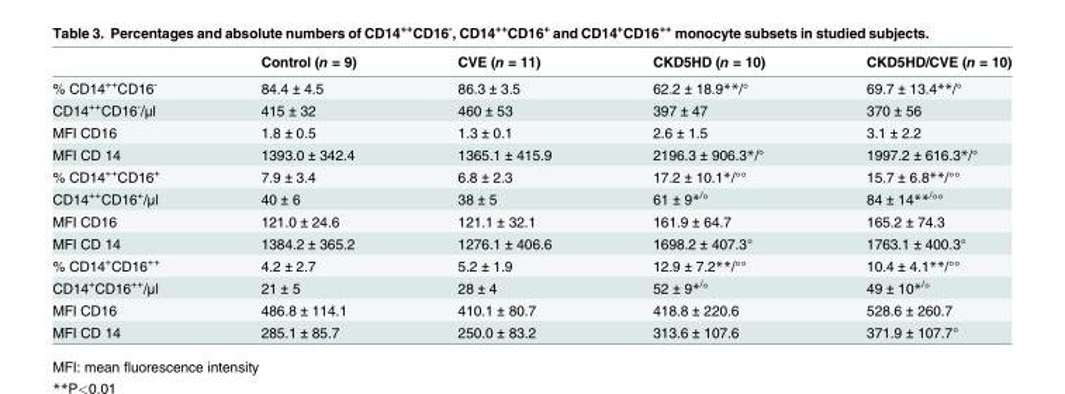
<table><thead><tr><td></td><td>Control (n = 9)</td><td>CVE (n = 11)</td><td>CKD5HD (n = 10)</td><td>CKD5HD/CVE (n = 10)</td></tr></thead><tbody><tr><td>% CD14<sup>++</sup>CD16<sup>-</sup></td><td>84.4 ± 4.5</td><td>86.3 ± 3.5</td><td>62.2 ± 18.9**/°</td><td>69.7 ± 13.4**/°</td></tr><tr><td>CD14<sup>++</sup>CD16<sup>-</sup>/μl</td><td>415 ± 32</td><td>460 ± 53</td><td>397 ± 47</td><td>370 ± 56</td></tr><tr><td>MFI CD16</td><td>1.8 ± 0.5</td><td>1.3 ± 0.1</td><td>2.6 ± 1.5</td><td>3.1 ± 2.2</td></tr><tr><td>MFI CD 14</td><td>1393.0 ± 342.4</td><td>1365.1 ± 415.9</td><td>2196.3 ± 906.3*/°</td><td>1997.2 ± 616.3*/°</td></tr><tr><td>% CD14<sup>++</sup>CD16<sup>+</sup></td><td>7.9 ± 3.4</td><td>6.8 ± 2.3</td><td>17.2 ± 10.1*/°°</td><td>15.7 ± 6.8**/°°</td></tr><tr><td>CD14<sup>++</sup>CD16<sup>+</sup>/μl</td><td>40 ± 6</td><td>38 ± 5</td><td>61 ± 9*<sup>/</sup>°</td><td>84 ± 14**<sup>/</sup>°°</td></tr><tr><td>MFI CD16</td><td>121.0 ± 24.6</td><td>121.1 ± 32.1</td><td>161.9 ± 64.7</td><td>165.2 ± 74.3</td></tr><tr><td>MFI CD 14</td><td>1384.2 ± 365.2</td><td>1276.1 ± 406.6</td><td>1698.2 ± 407.3°</td><td>1763.1 ± 400.3°</td></tr><tr><td>% CD14<sup>+</sup>CD16<sup>++</sup></td><td>4.2 ± 2.7</td><td>5.2 ± 1.9</td><td>12.9 ± 7.2**/°°</td><td>10.4 ± 4.1**/°°</td></tr><tr><td>CD14<sup>+</sup>CD16<sup>++</sup>/μl</td><td>21 ± 5</td><td>28 ± 4</td><td>52 ± 9*<sup>/</sup>°</td><td>49 ± 10*<sup>/</sup>°</td></tr><tr><td>MFI CD16</td><td>486.8 ± 114.1</td><td>410.1 ± 80.7</td><td>418.8 ± 220.6</td><td>528.6 ± 260.7</td></tr><tr><td>MFI CD 14</td><td>285.1 ± 85.7</td><td>250.0 ± 83.2</td><td>313.6 ± 107.6</td><td>371.9 ± 107.7°</td></tr></tbody></table>